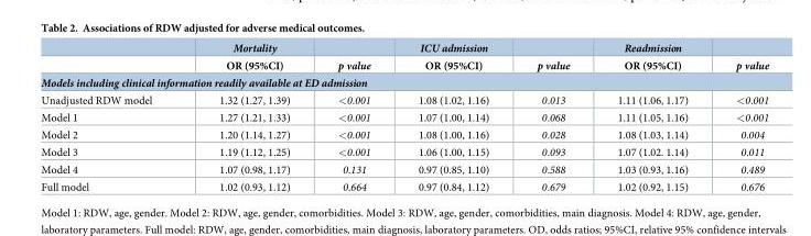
<table><thead><tr><td rowspan="2"></td><td rowspan="2">Mortality OR (95%CI)</td><td rowspan="2">p value</td><td rowspan="2">ICU admission OR (95%CI)</td><td rowspan="2">p value</td><td rowspan="2">Readmission OR (95%CI)</td><td rowspan="2">p value</td></tr><tr></tr><tr><td colspan="7">Models including clinical information readily available at ED admission</td></tr></thead><tbody><tr><td>Unadjusted RDW model</td><td>1.32 (1.27, 1.39)</td><td>&lt;0.001</td><td>1.08 (1.02, 1.16)</td><td>0.013</td><td>1.11 (1.06, 1.17)</td><td>&lt;0.001</td></tr><tr><td>Model 1</td><td>1.27 (1.21, 1.33)</td><td>&lt;0.001</td><td>1.07 (1.00, 1.14)</td><td>0.068</td><td>1.11 (1.05, 1.16)</td><td>&lt;0.001</td></tr><tr><td>Model 2</td><td>1.20 (1.14, 1.27)</td><td>&lt;0.001</td><td>1.08 (1.00, 1.16)</td><td>0.028</td><td>1.08 (1.03, 1.14)</td><td>0.004</td></tr><tr><td>Model 3</td><td>1.19 (1.12, 1.25)</td><td>&lt;0.001</td><td>1.06 (1.00, 1.15)</td><td>0.093</td><td>1.07 (1.02. 1.14)</td><td>0.011</td></tr><tr><td>Model 4</td><td>1.07 (0.98, 1.17)</td><td>0.131</td><td>0.97 (0.85, 1.10)</td><td>0.588</td><td>1.03 (0.93, 1.16)</td><td>0.489</td></tr><tr><td>Full model</td><td>1.02 (0.93, 1.12)</td><td>0.664</td><td>0.97 (0.84, 1.12)</td><td>0.679</td><td>1.02 (0.92, 1.15)</td><td>0.676</td></tr></tbody></table>